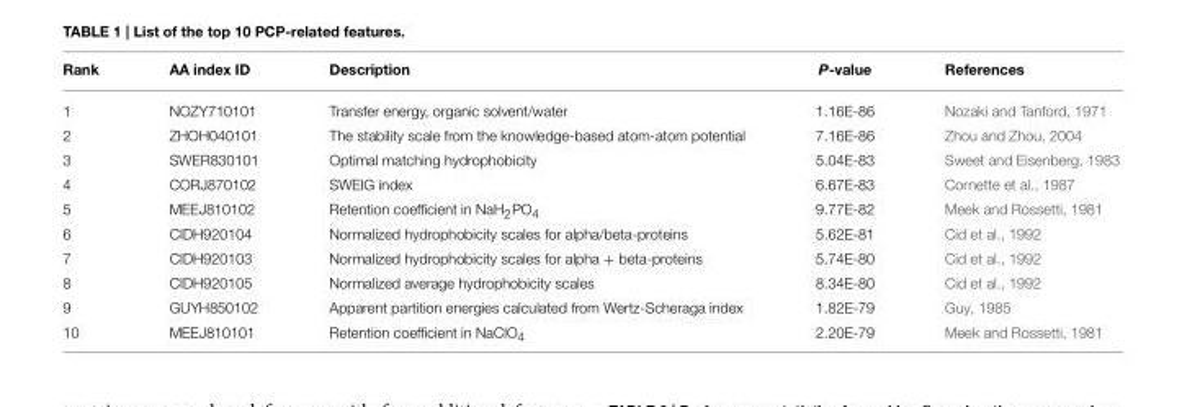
<table><thead><tr><td>Rank</td><td>AA index ID</td><td>Description</td><td>P-value</td><td>References</td></tr></thead><tbody><tr><td>1</td><td>NOZY710101</td><td>Transfer energy, organic solvent/water</td><td>1.16E-86</td><td>Nozaki and Tanford, 1971</td></tr><tr><td>2</td><td>ZHOH040101</td><td>The stability scale from the knowledge-based atom-atom potential</td><td>7.16E-86</td><td>Zhou and Zhou, 2004</td></tr><tr><td>3</td><td>SWER830101</td><td>Optimal matching hydrophobicity</td><td>5.04E-83</td><td>Sweet and Eisenberg, 1983</td></tr><tr><td>4</td><td>CORJ870102</td><td>SWEIG index</td><td>6.67E-83</td><td>Cornette et al., 1987</td></tr><tr><td>5</td><td>MEEJ810102</td><td>Retention coefficient in NaH<sub>2</sub>PO<sub>4</sub></td><td>9.77E-82</td><td>Meek and Rossetti, 1981</td></tr><tr><td>6</td><td>CIDH920104</td><td>Normalized hydrophobicity scales for alpha/beta-proteins</td><td>5.62E-81</td><td>Cid et al., 1992</td></tr><tr><td>7</td><td>CIDH920103</td><td>Normalized hydrophobicity scales for alpha + beta-proteins</td><td>5.74E-80</td><td>Cid et al., 1992</td></tr><tr><td>8</td><td>CIDH920105</td><td>Normalized average hydrophobicity scales</td><td>8.34E-80</td><td>Cid et al., 1992</td></tr><tr><td>9</td><td>GUYH850102</td><td>Apparent partition energies calculated from Wertz-Scheraga index</td><td>1.82E-79</td><td>Guy, 1985</td></tr><tr><td>10</td><td>MEEJ810101</td><td>Retention coefficient in NaClO<sub>4</sub></td><td>2.20E-79</td><td>Meek and Rossetti, 1981</td></tr></tbody></table>